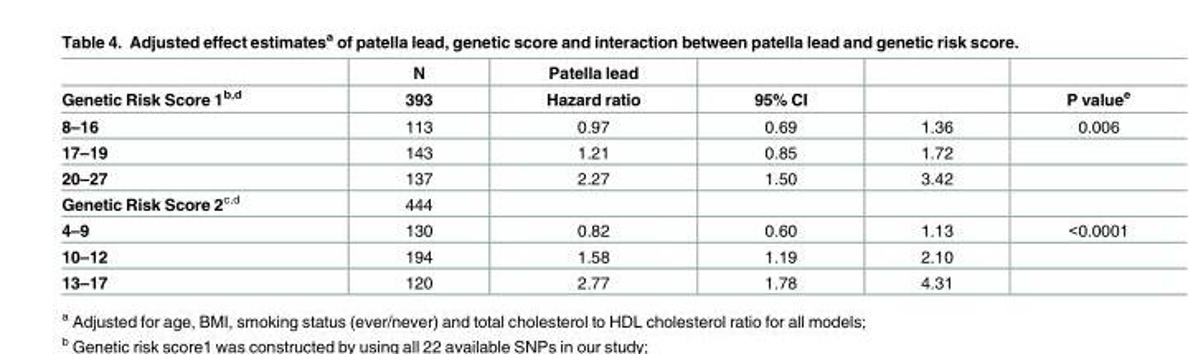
<table><thead><tr><td rowspan="2">Genetic Risk Score 1<sup>b,d</sup></td><td rowspan="2">N 393</td><td rowspan="2">Patella lead Hazard ratio</td><td rowspan="2">95% CI</td><td rowspan="2"></td><td rowspan="2">P value<sup>e</sup></td></tr><tr></tr></thead><tbody><tr><td>8–16</td><td>113</td><td>0.97</td><td>0.69</td><td>1.36</td><td>0.006</td></tr><tr><td>17–19</td><td>143</td><td>1.21</td><td>0.85</td><td>1.72</td><td></td></tr><tr><td>20–27</td><td>137</td><td>2.27</td><td>1.50</td><td>3.42</td><td></td></tr><tr><td>Genetic Risk Score 2<sup>c,d</sup></td><td>444</td><td></td><td></td><td></td><td></td></tr><tr><td>4–9</td><td>130</td><td>0.82</td><td>0.60</td><td>1.13</td><td>&lt;0.0001</td></tr><tr><td>10–12</td><td>194</td><td>1.58</td><td>1.19</td><td>2.10</td><td></td></tr><tr><td>13–17</td><td>120</td><td>2.77</td><td>1.78</td><td>4.31</td><td></td></tr></tbody></table>